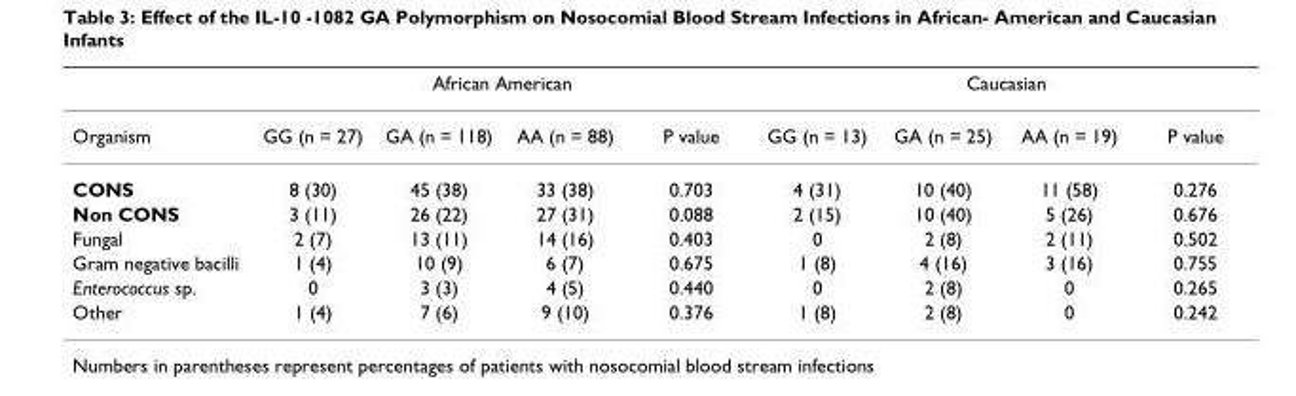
<table><thead><tr><td rowspan="2">Organism</td><td colspan="4">African American</td><td colspan="4">Caucasian</td></tr><tr><td>GG (n = 27)</td><td>GA (n = 118)</td><td>AA (n = 88)</td><td>P value</td><td>GG (n = 13)</td><td>GA (n = 25)</td><td>AA (n = 19)</td><td>P value</td></tr></thead><tbody><tr><td>CONS</td><td>8 (30)</td><td>45 (38)</td><td>33 (38)</td><td>0.703</td><td>4 (31)</td><td>10 (40)</td><td>11 (58)</td><td>0.276</td></tr><tr><td>Non CONS</td><td>3 (11)</td><td>26 (22)</td><td>27 (31)</td><td>0.088</td><td>2 (15)</td><td>10 (40)</td><td>5 (26)</td><td>0.676</td></tr><tr><td>Fungal</td><td>2 (7)</td><td>13 (11)</td><td>14 (16)</td><td>0.403</td><td>0</td><td>2 (8)</td><td>2 (11)</td><td>0.502</td></tr><tr><td>Gram negative bacilli</td><td>1 (4)</td><td>10 (9)</td><td>6 (7)</td><td>0.675</td><td>1 (8)</td><td>4 (16)</td><td>3 (16)</td><td>0.755</td></tr><tr><td>Enterococcus sp.</td><td>0</td><td>3 (3)</td><td>4 (5)</td><td>0.440</td><td>0</td><td>2 (8)</td><td>0</td><td>0.265</td></tr><tr><td>Other</td><td>1 (4)</td><td>7 (6)</td><td>9 (10)</td><td>0.376</td><td>1 (8)</td><td>2 (8)</td><td>0</td><td>0.242</td></tr></tbody></table>